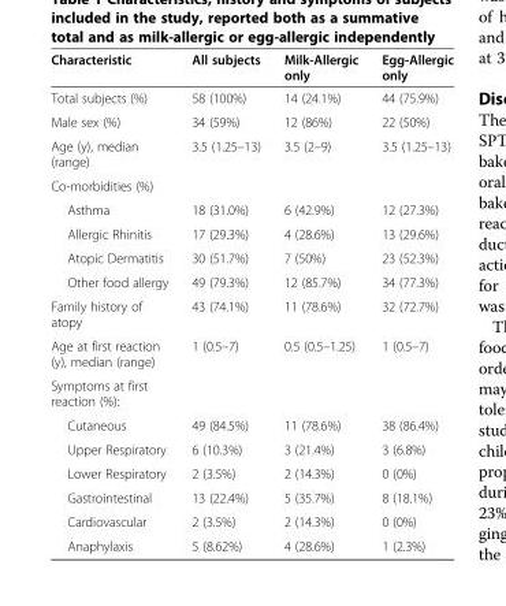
<table><thead><tr><td>Characteristic</td><td>All subjects</td><td>Milk-Allergic only</td><td>Egg-Allergic only</td></tr></thead><tbody><tr><td>Total subjects (%)</td><td>58 (100%)</td><td>14 (24.1%)</td><td>44 (75.9%)</td></tr><tr><td>Male sex (%)</td><td>34 (59%)</td><td>12 (86%)</td><td>22 (50%)</td></tr><tr><td>Age (y), median (range)</td><td>3.5 (1.25–13)</td><td>3.5 (2–9)</td><td>3.5 (1.25–13)</td></tr><tr><td colspan="4">Co-morbidities (%)</td></tr><tr><td>Asthma</td><td>18 (31.0%)</td><td>6 (42.9%)</td><td>12 (27.3%)</td></tr><tr><td>Allergic Rhinitis</td><td>17 (29.3%)</td><td>4 (28.6%)</td><td>13 (29.6%)</td></tr><tr><td>Atopic Dermatitis</td><td>30 (51.7%)</td><td>7 (50%)</td><td>23 (52.3%)</td></tr><tr><td>Other food allergy</td><td>49 (79.3%)</td><td>12 (85.7%)</td><td>34 (77.3%)</td></tr><tr><td>Family history of atopy</td><td>43 (74.1%)</td><td>11 (78.6%)</td><td>32 (72.7%)</td></tr><tr><td>Age at first reaction (y), median (range)</td><td>1 (0.5–7)</td><td>0.5 (0.5–1.25)</td><td>1 (0.5–7)</td></tr><tr><td colspan="4">Symptoms at first reaction (%):</td></tr><tr><td>Cutaneous</td><td>49 (84.5%)</td><td>11 (78.6%)</td><td>38 (86.4%)</td></tr><tr><td>Upper Respiratory</td><td>6 (10.3%)</td><td>3 (21.4%)</td><td>3 (6.8%)</td></tr><tr><td>Lower Respiratory</td><td>2 (3.5%)</td><td>2 (14.3%)</td><td>0 (0%)</td></tr><tr><td>Gastrointestinal</td><td>13 (22.4%)</td><td>5 (35.7%)</td><td>8 (18.1%)</td></tr><tr><td>Cardiovascular</td><td>2 (3.5%)</td><td>2 (14.3%)</td><td>0 (0%)</td></tr><tr><td>Anaphylaxis</td><td>5 (8.62%)</td><td>4 (28.6%)</td><td>1 (2.3%)</td></tr></tbody></table>